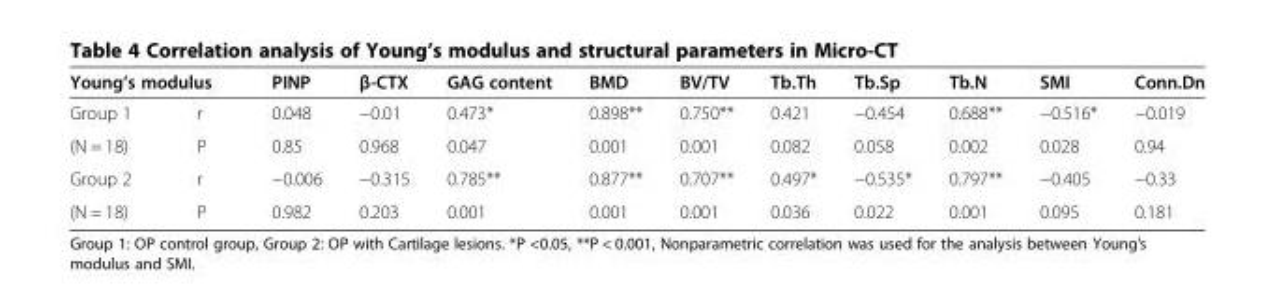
<table><thead><tr><td colspan="2">Young’s modulus</td><td rowspan="2">PINP 0.048</td><td rowspan="2">β-CTX −0.01</td><td rowspan="2">GAG content 0.473*</td><td rowspan="2">BMD 0.898**</td><td rowspan="2">BV/TV 0.750**</td><td rowspan="2">Tb.Th 0.421</td><td rowspan="2">Tb.Sp −0.454</td><td rowspan="2">Tb.N 0.688**</td><td rowspan="2">SMI −0.516*</td><td rowspan="2">Conn.Dn −0.019</td></tr><tr><td>Group 1</td><td>r</td></tr></thead><tbody><tr><td>(N = 18)</td><td>P</td><td>0.85</td><td>0.968</td><td>0.047</td><td>0.001</td><td>0.001</td><td>0.082</td><td>0.058</td><td>0.002</td><td>0.028</td><td>0.94</td></tr><tr><td>Group 2</td><td>r</td><td>−0.006</td><td>−0.315</td><td>0.785**</td><td>0.877**</td><td>0.707**</td><td>0.497*</td><td>−0.535*</td><td>0.797**</td><td>−0.405</td><td>−0.33</td></tr><tr><td>(N = 18)</td><td>P</td><td>0.982</td><td>0.203</td><td>0.001</td><td>0.001</td><td>0.001</td><td>0.036</td><td>0.022</td><td>0.001</td><td>0.095</td><td>0.181</td></tr></tbody></table>